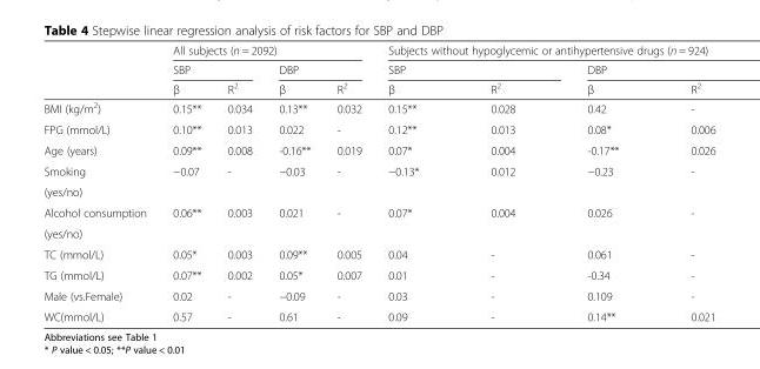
<table><thead><tr><td rowspan="3"></td><td colspan="4">All subjects (n = 2092)</td><td colspan="4">Subjects without hypoglycemic or antihypertensive drugs (n = 924)</td></tr><tr><td colspan="2">SBP</td><td colspan="2">DBP</td><td colspan="2">SBP</td><td colspan="2">DBP</td></tr><tr><td>β</td><td>R<sup>2</sup></td><td>β</td><td>R<sup>2</sup></td><td>β</td><td>R<sup>2</sup></td><td>β</td><td>R<sup>2</sup></td></tr></thead><tbody><tr><td>BMI (kg/m<sup>2</sup>)</td><td>0.15**</td><td>0.034</td><td>0.13**</td><td>0.032</td><td>0.15**</td><td>0.028</td><td>0.42</td><td>-</td></tr><tr><td>FPG (mmol/L)</td><td>0.10**</td><td>0.013</td><td>0.022</td><td>-</td><td>0.12**</td><td>0.013</td><td>0.08*</td><td>0.006</td></tr><tr><td>Age (years)</td><td>0.09**</td><td>0.008</td><td>-0.16**</td><td>0.019</td><td>0.07*</td><td>0.004</td><td>-0.17**</td><td>0.026</td></tr><tr><td>Smoking</td><td rowspan="2">−0.07</td><td rowspan="2">-</td><td rowspan="2">−0.03</td><td rowspan="2">-</td><td rowspan="2">−0.13*</td><td rowspan="2">0.012</td><td rowspan="2">−0.23</td><td rowspan="2">-</td></tr><tr><td>(yes/no)</td></tr><tr><td>Alcohol consumption</td><td rowspan="2">0.06**</td><td rowspan="2">0.003</td><td rowspan="2">0.021</td><td rowspan="2">-</td><td rowspan="2">0.07*</td><td rowspan="2">0.004</td><td rowspan="2">0.026</td><td rowspan="2">-</td></tr><tr><td>(yes/no)</td></tr><tr><td>TC (mmol/L)</td><td>0.05*</td><td>0.003</td><td>0.09**</td><td>0.005</td><td>0.04</td><td>-</td><td>0.061</td><td>-</td></tr><tr><td>TG (mmol/L)</td><td>0.07**</td><td>0.002</td><td>0.05*</td><td>0.007</td><td>0.01</td><td>-</td><td>-0.34</td><td>-</td></tr><tr><td>Male (vs.Female)</td><td>0.02</td><td>-</td><td>−0.09</td><td>-</td><td>0.03</td><td>-</td><td>0.109</td><td>-</td></tr><tr><td>WC(mmol/L)</td><td>0.57</td><td>-</td><td>0.61</td><td>-</td><td>0.09</td><td>-</td><td>0.14**</td><td>0.021</td></tr></tbody></table>